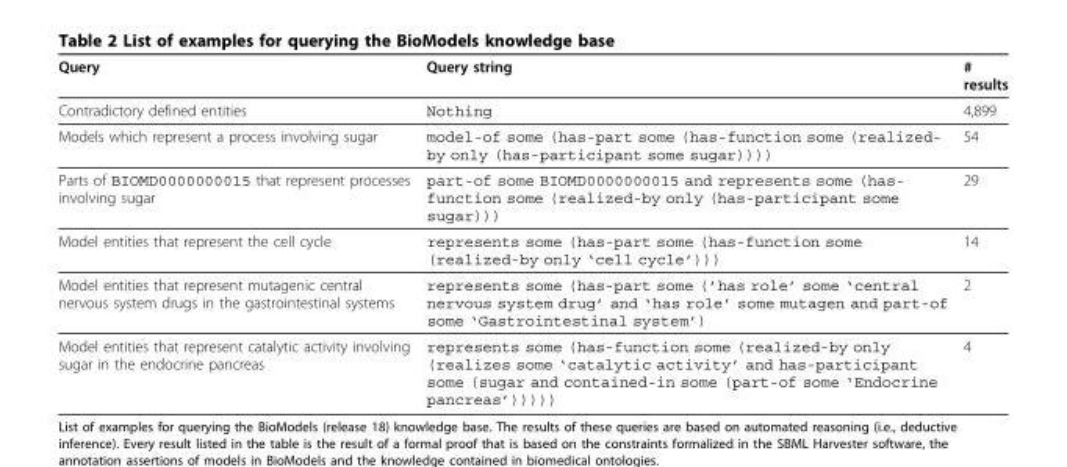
<table><thead><tr><td>Query</td><td>Query string</td><td># results</td></tr></thead><tbody><tr><td>Contradictory defined entities</td><td>Nothing</td><td>4,899</td></tr><tr><td>Models which represent a process involving sugar</td><td>model-of some (has-part some (has-function some (realized- by only (has-participant some sugar))))</td><td>54</td></tr><tr><td>Parts of BIOMD0000000015 that represent processes involving sugar</td><td>part-of some BIOMD0000000015 and represents some (has- function some (realized-by only (has-participant some sugar)))</td><td>29</td></tr><tr><td>Model entities that represent the cell cycle</td><td>represents some (has-part some (has-function some (realized-by only ‘cell cycle’)))</td><td>14</td></tr><tr><td>Model entities that represent mutagenic central nervous system drugs in the gastrointestinal systems</td><td>represents some (has-part some (’has role’ some ‘central nervous system drug’ and ‘has role’ some mutagen and part-of some ‘Gastrointestinal system’)</td><td>2</td></tr><tr><td>Model entities that represent catalytic activity involving sugar in the endocrine pancreas</td><td>represents some (has-function some (realized-by only (realizes some ‘catalytic activity’ and has-participant some (sugar and contained-in some (part-of some ‘Endocrine pancreas’)))))</td><td>4</td></tr></tbody></table>